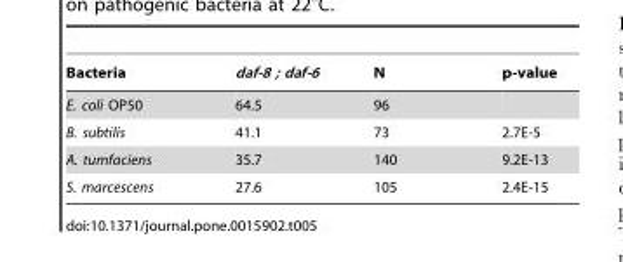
<table><thead><tr><td>Bacteria</td><td>daf-8 ; daf-6</td><td>N</td><td>p-value</td></tr></thead><tbody><tr><td>E. coli OP50</td><td>64.5</td><td>96</td><td></td></tr><tr><td>B. subtilis</td><td>41.1</td><td>73</td><td>2.7E-5</td></tr><tr><td>A. tumfaciens</td><td>35.7</td><td>140</td><td>9.2E-13</td></tr><tr><td>S. marcescens</td><td>27.6</td><td>105</td><td>2.4E-15</td></tr></tbody></table>